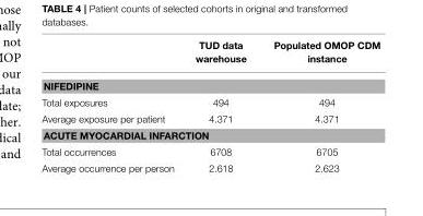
<table><thead><tr><td></td><td>TUD data warehouse</td><td>Populated OMOP CDM instance</td></tr></thead><tbody><tr><td colspan="3">NIFEDIPINE</td></tr><tr><td>Total exposures</td><td>494</td><td>494</td></tr><tr><td>Average exposure per patient</td><td>4.371</td><td>4.371</td></tr><tr><td colspan="3">ACUTE MYOCARDIAL INFARCTION</td></tr><tr><td>Total occurrences</td><td>6708</td><td>6705</td></tr><tr><td>Average occurrence per person</td><td>2.618</td><td>2.623</td></tr></tbody></table>